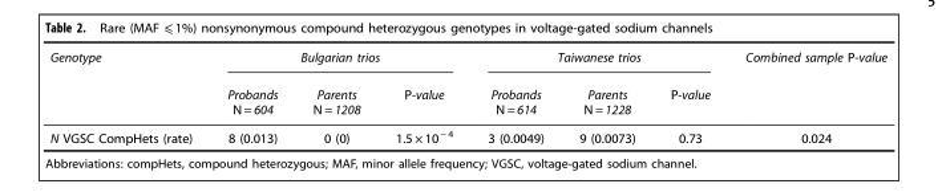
<table><thead><tr><td rowspan="2">Genotype</td><td colspan="3">Bulgarian trios</td><td colspan="3">Taiwanese trios</td><td rowspan="2">Combined sample P-value</td></tr><tr><td>Probands N = 604</td><td>Parents N = 1208</td><td>P-value</td><td>Probands N = 614</td><td>Parents N = 1228</td><td>P-value</td></tr></thead><tbody><tr><td>N VGSC CompHets (rate)</td><td>8 (0.013)</td><td>0 (0)</td><td>1.5 × 10 <sup>− 4</sup></td><td>3 (0.0049)</td><td>9 (0.0073)</td><td>0.73</td><td>0.024</td></tr></tbody></table>